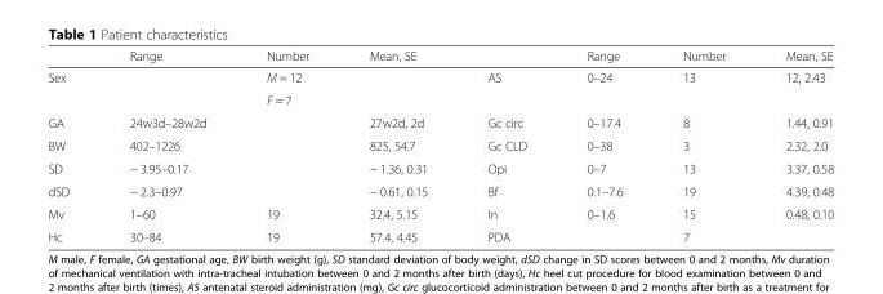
<table><thead><tr><td></td><td>Range</td><td>Number</td><td>Mean, SE</td><td></td><td>Range</td><td>Number</td><td>Mean, SE</td></tr></thead><tbody><tr><td rowspan="2">Sex</td><td rowspan="2"></td><td>M = 12</td><td rowspan="2"></td><td rowspan="2">AS</td><td rowspan="2">0–24</td><td rowspan="2">13</td><td rowspan="2">12, 2.43</td></tr><tr><td>F = 7</td></tr><tr><td>GA</td><td>24w3d–28w2d</td><td></td><td>27w2d, 2d</td><td>Gc circ</td><td>0–17.4</td><td>8</td><td>1.44, 0.91</td></tr><tr><td>BW</td><td>402–1226</td><td></td><td>825, 54.7</td><td>Gc CLD</td><td>0–38</td><td>3</td><td>2.32, 2.0</td></tr><tr><td>SD</td><td>− 3.95–0.17</td><td></td><td>− 1.36, 0.31</td><td>Opi</td><td>0–7</td><td>13</td><td>3.37, 0.58</td></tr><tr><td>dSD</td><td>− 2.3–0.97</td><td></td><td>− 0.61, 0.15</td><td>Bf</td><td>0.1–7.6</td><td>19</td><td>4.39, 0.48</td></tr><tr><td>Mv</td><td>1–60</td><td>19</td><td>32.4, 5.15</td><td>In</td><td>0–1.6</td><td>15</td><td>0.48, 0.10</td></tr><tr><td>Hc</td><td>30–84</td><td>19</td><td>57.4, 4.45</td><td>PDA</td><td></td><td>7</td><td></td></tr></tbody></table>